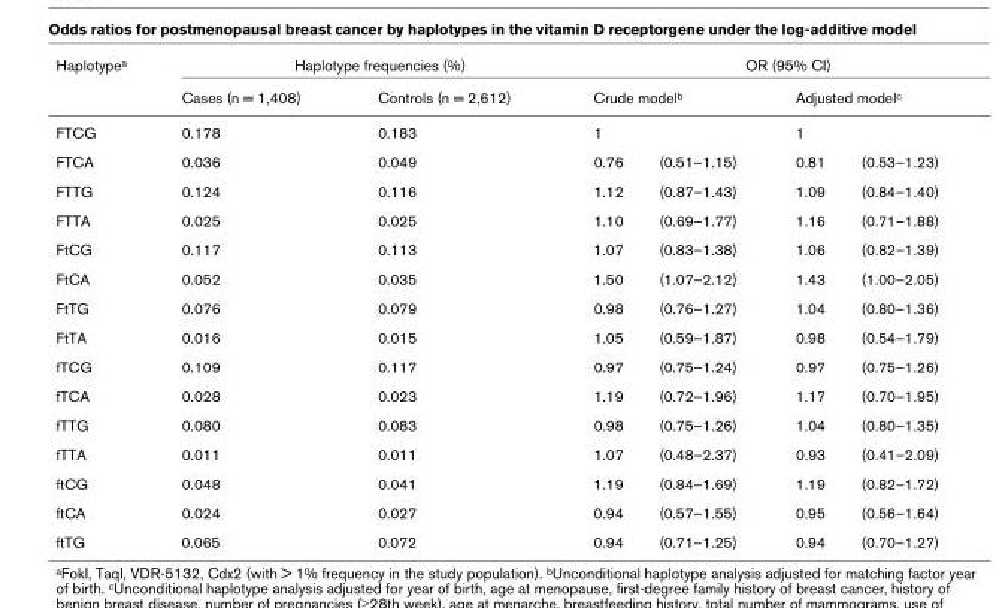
<table><thead><tr><td rowspan="3">Haplotypea FTCG</td><td colspan="2">Haplotype frequencies (%)</td><td colspan="4">OR (95% CI)</td></tr><tr><td rowspan="2">Cases (n = 1,408) 0.178</td><td rowspan="2">Controls (n = 2,612) 0.183</td><td colspan="2">Crude model<sup>b</sup></td><td colspan="2">Adjusted model<sup>c</sup></td></tr><tr><td>1</td><td></td><td>1</td><td></td></tr></thead><tbody><tr><td>FTCA</td><td>0.036</td><td>0.049</td><td>0.76</td><td>(0.51–1.15)</td><td>0.81</td><td>(0.53–1.23)</td></tr><tr><td>FTTG</td><td>0.124</td><td>0.116</td><td>1.12</td><td>(0.87–1.43)</td><td>1.09</td><td>(0.84–1.40)</td></tr><tr><td>FTTA</td><td>0.025</td><td>0.025</td><td>1.10</td><td>(0.69–1.77)</td><td>1.16</td><td>(0.71–1.88)</td></tr><tr><td>FtCG</td><td>0.117</td><td>0.113</td><td>1.07</td><td>(0.83–1.38)</td><td>1.06</td><td>(0.82–1.39)</td></tr><tr><td>FtCA</td><td>0.052</td><td>0.035</td><td>1.50</td><td>(1.07–2.12)</td><td>1.43</td><td>(1.00–2.05)</td></tr><tr><td>FtTG</td><td>0.076</td><td>0.079</td><td>0.98</td><td>(0.76–1.27)</td><td>1.04</td><td>(0.80–1.36)</td></tr><tr><td>FtTA</td><td>0.016</td><td>0.015</td><td>1.05</td><td>(0.59–1.87)</td><td>0.98</td><td>(0.54–1.79)</td></tr><tr><td>fTCG</td><td>0.109</td><td>0.117</td><td>0.97</td><td>(0.75–1.24)</td><td>0.97</td><td>(0.75–1.26)</td></tr><tr><td>fTCA</td><td>0.028</td><td>0.023</td><td>1.19</td><td>(0.72–1.96)</td><td>1.17</td><td>(0.70–1.95)</td></tr><tr><td>fTTG</td><td>0.080</td><td>0.083</td><td>0.98</td><td>(0.75–1.26)</td><td>1.04</td><td>(0.80–1.35)</td></tr><tr><td>fTTA</td><td>0.011</td><td>0.011</td><td>1.07</td><td>(0.48–2.37)</td><td>0.93</td><td>(0.41–2.09)</td></tr><tr><td>ftCG</td><td>0.048</td><td>0.041</td><td>1.19</td><td>(0.84–1.69)</td><td>1.19</td><td>(0.82–1.72)</td></tr><tr><td>ftCA</td><td>0.024</td><td>0.027</td><td>0.94</td><td>(0.57–1.55)</td><td>0.95</td><td>(0.56–1.64)</td></tr><tr><td>ftTG</td><td>0.065</td><td>0.072</td><td>0.94</td><td>(0.71–1.25)</td><td>0.94</td><td>(0.70–1.27)</td></tr></tbody></table>